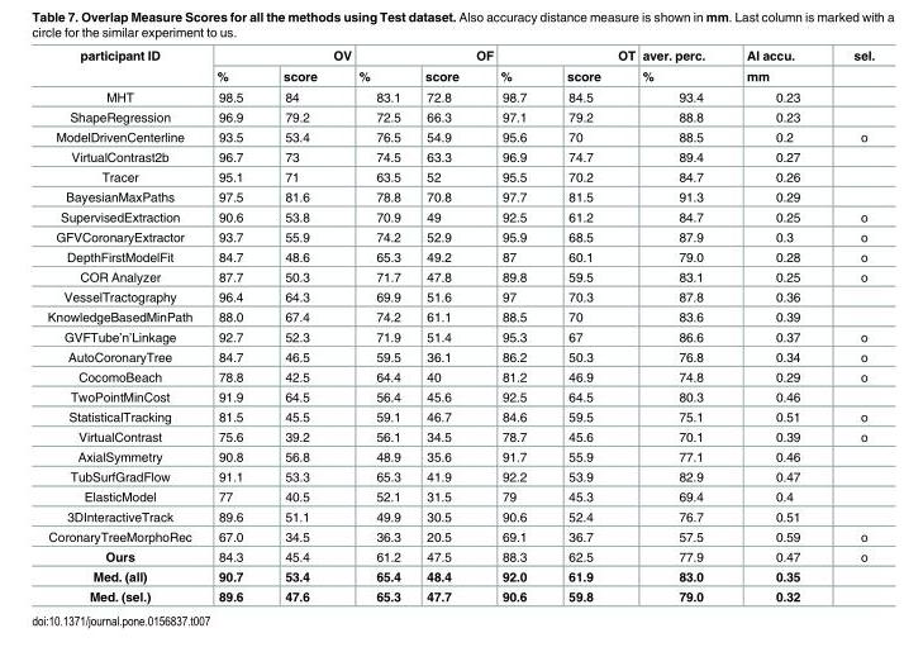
<table><thead><tr><td rowspan="2">participant ID</td><td colspan="2">OV</td><td colspan="2">OF</td><td colspan="2">OT</td><td rowspan="2">aver. perc. %</td><td rowspan="2">AI accu. mm</td><td rowspan="2">sel.</td></tr><tr><td>%</td><td>score</td><td>%</td><td>score</td><td>%</td><td>score</td></tr></thead><tbody><tr><td>MHT</td><td>98.5</td><td>84</td><td>83.1</td><td>72.8</td><td>98.7</td><td>84.5</td><td>93.4</td><td>0.23</td><td></td></tr><tr><td>ShapeRegression</td><td>96.9</td><td>79.2</td><td>72.5</td><td>66.3</td><td>97.1</td><td>79.2</td><td>88.8</td><td>0.23</td><td></td></tr><tr><td>ModelDrivenCenterline</td><td>93.5</td><td>53.4</td><td>76.5</td><td>54.9</td><td>95.6</td><td>70</td><td>88.5</td><td>0.2</td><td>o</td></tr><tr><td>VirtualContrast2b</td><td>96.7</td><td>73</td><td>74.5</td><td>63.3</td><td>96.9</td><td>74.7</td><td>89.4</td><td>0.27</td><td></td></tr><tr><td>Tracer</td><td>95.1</td><td>71</td><td>63.5</td><td>52</td><td>95.5</td><td>70.2</td><td>84.7</td><td>0.26</td><td></td></tr><tr><td>BayesianMaxPaths</td><td>97.5</td><td>81.6</td><td>78.8</td><td>70.8</td><td>97.7</td><td>81.5</td><td>91.3</td><td>0.29</td><td></td></tr><tr><td>SupervisedExtraction</td><td>90.6</td><td>53.8</td><td>70.9</td><td>49</td><td>92.5</td><td>61.2</td><td>84.7</td><td>0.25</td><td>o</td></tr><tr><td>GFVCoronaryExtractor</td><td>93.7</td><td>55.9</td><td>74.2</td><td>52.9</td><td>95.9</td><td>68.5</td><td>87.9</td><td>0.3</td><td>o</td></tr><tr><td>DepthFirstModelFit</td><td>84.7</td><td>48.6</td><td>65.3</td><td>49.2</td><td>87</td><td>60.1</td><td>79.0</td><td>0.28</td><td>o</td></tr><tr><td>COR Analyzer</td><td>87.7</td><td>50.3</td><td>71.7</td><td>47.8</td><td>89.8</td><td>59.5</td><td>83.1</td><td>0.25</td><td>o</td></tr><tr><td>VesselTractography</td><td>96.4</td><td>64.3</td><td>69.9</td><td>51.6</td><td>97</td><td>70.3</td><td>87.8</td><td>0.36</td><td></td></tr><tr><td>KnowledgeBasedMinPath</td><td>88.0</td><td>67.4</td><td>74.2</td><td>61.1</td><td>88.5</td><td>70</td><td>83.6</td><td>0.39</td><td></td></tr><tr><td>GVFTube’n’Linkage</td><td>92.7</td><td>52.3</td><td>71.9</td><td>51.4</td><td>95.3</td><td>67</td><td>86.6</td><td>0.37</td><td>o</td></tr><tr><td>AutoCoronaryTree</td><td>84.7</td><td>46.5</td><td>59.5</td><td>36.1</td><td>86.2</td><td>50.3</td><td>76.8</td><td>0.34</td><td>o</td></tr><tr><td>CocomoBeach</td><td>78.8</td><td>42.5</td><td>64.4</td><td>40</td><td>81.2</td><td>46.9</td><td>74.8</td><td>0.29</td><td>o</td></tr><tr><td>TwoPointMinCost</td><td>91.9</td><td>64.5</td><td>56.4</td><td>45.6</td><td>92.5</td><td>64.5</td><td>80.3</td><td>0.46</td><td></td></tr><tr><td>StatisticalTracking</td><td>81.5</td><td>45.5</td><td>59.1</td><td>46.7</td><td>84.6</td><td>59.5</td><td>75.1</td><td>0.51</td><td>o</td></tr><tr><td>VirtualContrast</td><td>75.6</td><td>39.2</td><td>56.1</td><td>34.5</td><td>78.7</td><td>45.6</td><td>70.1</td><td>0.39</td><td>o</td></tr><tr><td>AxialSymmetry</td><td>90.8</td><td>56.8</td><td>48.9</td><td>35.6</td><td>91.7</td><td>55.9</td><td>77.1</td><td>0.46</td><td></td></tr><tr><td>TubSurfGradFlow</td><td>91.1</td><td>53.3</td><td>65.3</td><td>41.9</td><td>92.2</td><td>53.9</td><td>82.9</td><td>0.47</td><td></td></tr><tr><td>ElasticModel</td><td>77</td><td>40.5</td><td>52.1</td><td>31.5</td><td>79</td><td>45.3</td><td>69.4</td><td>0.4</td><td></td></tr><tr><td>3DInteractiveTrack</td><td>89.6</td><td>51.1</td><td>49.9</td><td>30.5</td><td>90.6</td><td>52.4</td><td>76.7</td><td>0.51</td><td></td></tr><tr><td>CoronaryTreeMorphoRec</td><td>67.0</td><td>34.5</td><td>36.3</td><td>20.5</td><td>69.1</td><td>36.7</td><td>57.5</td><td>0.59</td><td>o</td></tr><tr><td>Ours</td><td>84.3</td><td>45.4</td><td>61.2</td><td>47.5</td><td>88.3</td><td>62.5</td><td>77.9</td><td>0.47</td><td>o</td></tr><tr><td>Med. (all)</td><td>90.7</td><td>53.4</td><td>65.4</td><td>48.4</td><td>92.0</td><td>61.9</td><td>83.0</td><td>0.35</td><td></td></tr><tr><td>Med. (sel.)</td><td>89.6</td><td>47.6</td><td>65.3</td><td>47.7</td><td>90.6</td><td>59.8</td><td>79.0</td><td>0.32</td><td></td></tr></tbody></table>